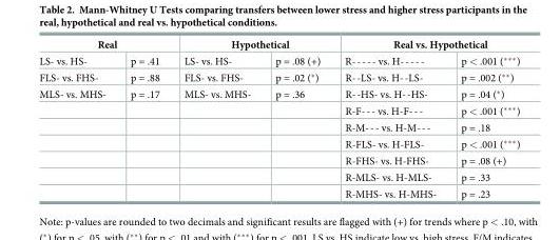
<table><thead><tr><td colspan="2">Real</td><td colspan="2">Hypothetical</td><td colspan="2">Real vs. Hypothetical</td></tr><tr><td>LS- vs. HS-</td><td>p = .41</td><td>LS- vs. HS-</td><td>p = .08 (+)</td><td>R----- vs. H-----</td><td>p &lt; .001 (***)</td></tr></thead><tbody><tr><td>FLS- vs. FHS-</td><td>p = .88</td><td>FLS- vs. FHS-</td><td>p = .02 (*)</td><td>R--LS- vs. H--LS-</td><td>p = .002 (**)</td></tr><tr><td rowspan="7">MLS- vs. MHS-</td><td>p = .17</td><td>MLS- vs. MHS-</td><td>p = .36</td><td>R--HS- vs. H--HS-</td><td>p = .04 (*)</td></tr><tr><td></td><td></td><td></td><td>R-F--- vs. H-F---</td><td>p &lt; .001 (***)</td></tr><tr><td></td><td></td><td></td><td>R-M--- vs. H-M---</td><td>p = .18</td></tr><tr><td></td><td></td><td></td><td>R-FLS- vs. H-FLS-</td><td>p &lt; .001 (***)</td></tr><tr><td></td><td></td><td></td><td>R-FHS- vs. H-FHS-</td><td>p = .08 (+)</td></tr><tr><td></td><td></td><td></td><td>R-MLS- vs. H-MLS-</td><td>p = .33</td></tr><tr><td></td><td></td><td></td><td>R-MHS- vs. H-MHS-</td><td>p = .23</td></tr></tbody></table>